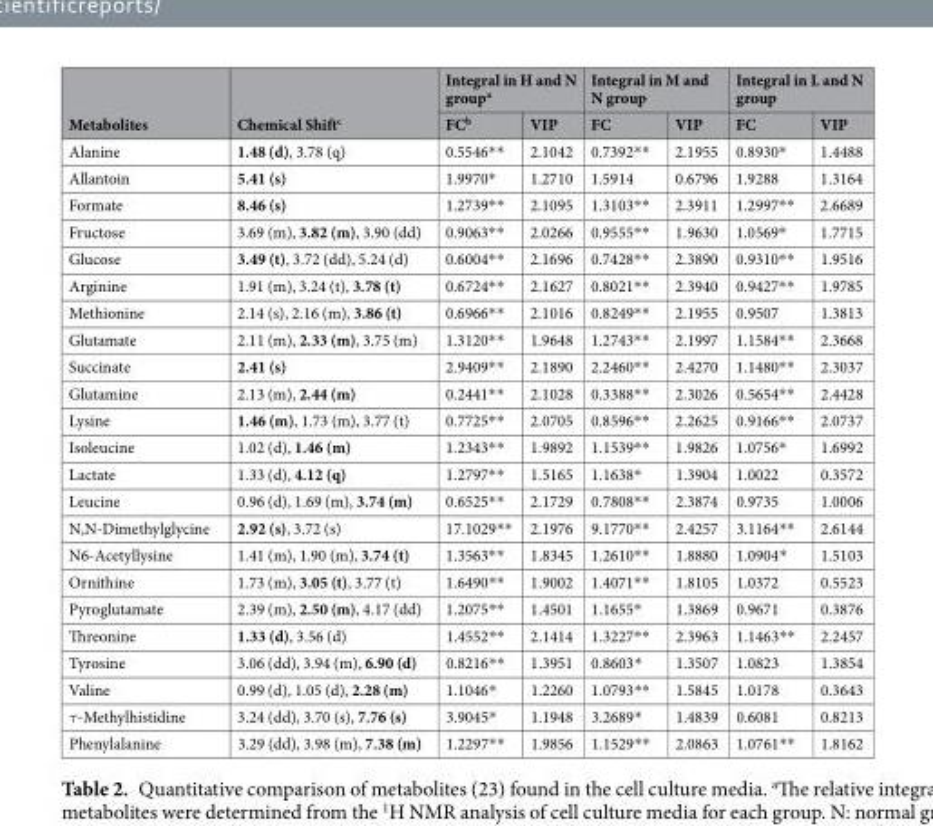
<table><thead><tr><td rowspan="2">Metabolites</td><td rowspan="2">Chemical Shift<sup>c</sup></td><td colspan="2">Integral in H and N group<sup>a</sup></td><td colspan="2">Integral in M and N group</td><td colspan="2">Integral in L and N group</td></tr><tr><td>FC<sup>b</sup></td><td>VIP</td><td>FC</td><td>VIP</td><td>FC</td><td>VIP</td></tr></thead><tbody><tr><td>Alanine</td><td>1.48 (d), 3.78 (q)</td><td>0.5546**</td><td>2.1042</td><td>0.7392**</td><td>2.1955</td><td>0.8930*</td><td>1.4488</td></tr><tr><td>Allantoin</td><td>5.41 (s)</td><td>1.9970*</td><td>1.2710</td><td>1.5914</td><td>0.6796</td><td>1.9288</td><td>1.3164</td></tr><tr><td>Formate</td><td>8.46 (s)</td><td>1.2739**</td><td>2.1095</td><td>1.3103**</td><td>2.3911</td><td>1.2997**</td><td>2.6689</td></tr><tr><td>Fructose</td><td>3.69 (m), 3.82 (m), 3.90 (dd)</td><td>0.9063**</td><td>2.0266</td><td>0.9555**</td><td>1.9630</td><td>1.0569*</td><td>1.7715</td></tr><tr><td>Glucose</td><td>3.49 (t), 3.72 (dd), 5.24 (d)</td><td>0.6004**</td><td>2.1696</td><td>0.7428**</td><td>2.3890</td><td>0.9310**</td><td>1.9516</td></tr><tr><td>Arginine</td><td>1.91 (m), 3.24 (t), 3.78 (t)</td><td>0.6724**</td><td>2.1627</td><td>0.8021**</td><td>2.3940</td><td>0.9427**</td><td>1.9785</td></tr><tr><td>Methionine</td><td>2.14 (s), 2.16 (m), 3.86 (t)</td><td>0.6966**</td><td>2.1016</td><td>0.8249**</td><td>2.1955</td><td>0.9507</td><td>1.3813</td></tr><tr><td>Glutamate</td><td>2.11 (m), 2.33 (m), 3.75 (m)</td><td>1.3120**</td><td>1.9648</td><td>1.2743**</td><td>2.1997</td><td>1.1584**</td><td>2.3668</td></tr><tr><td>Succinate</td><td>2.41 (s)</td><td>2.9409**</td><td>2.1890</td><td>2.2460**</td><td>2.4270</td><td>1.1480**</td><td>2.3037</td></tr><tr><td>Glutamine</td><td>2.13 (m), 2.44 (m)</td><td>0.2441**</td><td>2.1028</td><td>0.3388**</td><td>2.3026</td><td>0.5654**</td><td>2.4428</td></tr><tr><td>Lysine</td><td>1.46 (m), 1.73 (m), 3.77 (t)</td><td>0.7725**</td><td>2.0705</td><td>0.8596**</td><td>2.2625</td><td>0.9166**</td><td>2.0737</td></tr><tr><td>Isoleucine</td><td>1.02 (d), 1.46 (m)</td><td>1.2343**</td><td>1.9892</td><td>1.1539**</td><td>1.9826</td><td>1.0756*</td><td>1.6992</td></tr><tr><td>Lactate</td><td>1.33 (d), 4.12 (q)</td><td>1.2797**</td><td>1.5165</td><td>1.1638*</td><td>1.3904</td><td>1.0022</td><td>0.3572</td></tr><tr><td>Leucine</td><td>0.96 (d), 1.69 (m), 3.74 (m)</td><td>0.6525**</td><td>2.1729</td><td>0.7808**</td><td>2.3874</td><td>0.9735</td><td>1.0006</td></tr><tr><td>N,N-Dimethylglycine</td><td>2.92 (s), 3.72 (s)</td><td>17.1029**</td><td>2.1976</td><td>9.1770**</td><td>2.4257</td><td>3.1164**</td><td>2.6144</td></tr><tr><td>N6-Acetyllysine</td><td>1.41 (m), 1.90 (m), 3.74 (t)</td><td>1.3563**</td><td>1.8345</td><td>1.2610**</td><td>1.8880</td><td>1.0904*</td><td>1.5103</td></tr><tr><td>Ornithine</td><td>1.73 (m), 3.05 (t), 3.77 (t)</td><td>1.6490**</td><td>1.9002</td><td>1.4071**</td><td>1.8105</td><td>1.0372</td><td>0.5523</td></tr><tr><td>Pyroglutamate</td><td>2.39 (m), 2.50 (m), 4.17 (dd)</td><td>1.2075**</td><td>1.4501</td><td>1.1655*</td><td>1.3869</td><td>0.9671</td><td>0.3876</td></tr><tr><td>Threonine</td><td>1.33 (d), 3.56 (d)</td><td>1.4552**</td><td>2.1414</td><td>1.3227**</td><td>2.3963</td><td>1.1463**</td><td>2.2457</td></tr><tr><td>Tyrosine</td><td>3.06 (dd), 3.94 (m), 6.90 (d)</td><td>0.8216**</td><td>1.3951</td><td>0.8603*</td><td>1.3507</td><td>1.0823</td><td>1.3854</td></tr><tr><td>Valine</td><td>0.99 (d), 1.05 (d), 2.28 (m)</td><td>1.1046*</td><td>1.2260</td><td>1.0793**</td><td>1.5845</td><td>1.0178</td><td>0.3643</td></tr><tr><td>τ-Methylhistidine</td><td>3.24 (dd), 3.70 (s), 7.76 (s)</td><td>3.9045*</td><td>1.1948</td><td>3.2689*</td><td>1.4839</td><td>0.6081</td><td>0.8213</td></tr><tr><td>Phenylalanine</td><td>3.29 (dd), 3.98 (m), 7.38 (m)</td><td>1.2297**</td><td>1.9856</td><td>1.1529**</td><td>2.0863</td><td>1.0761**</td><td>1.8162</td></tr></tbody></table>